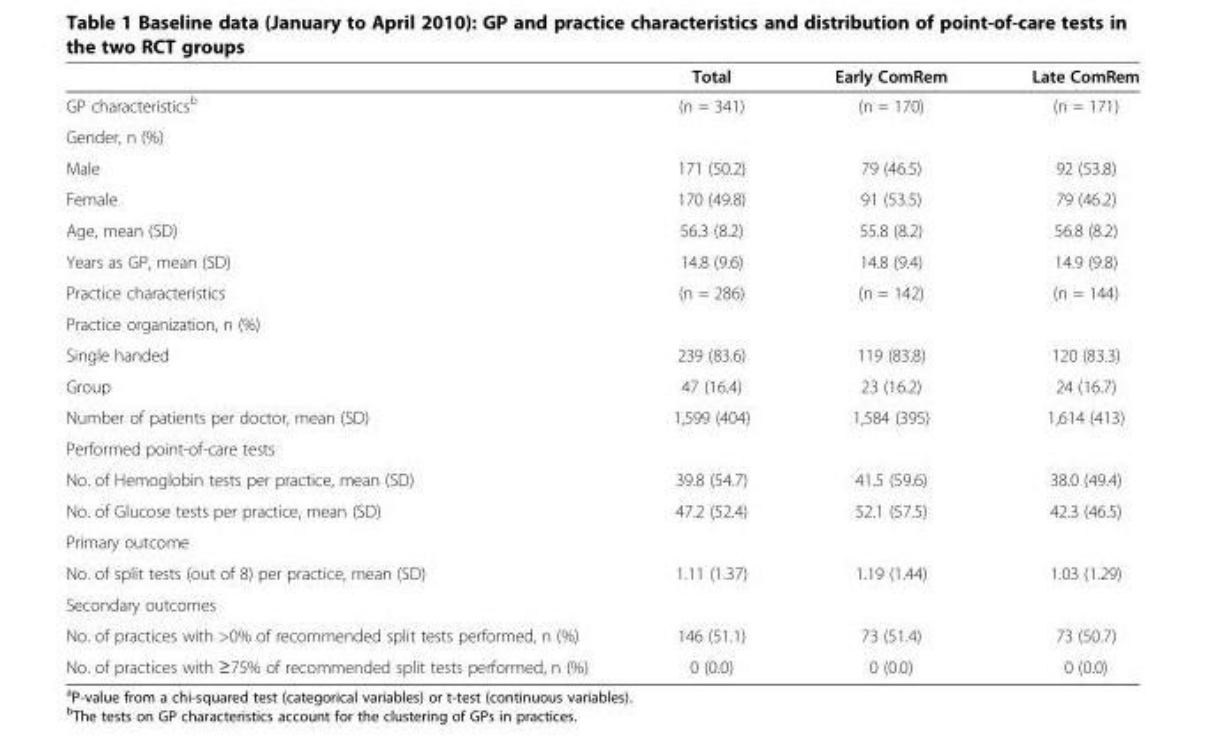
<table><thead><tr><td></td><td>Total</td><td>Early ComRem</td><td>Late ComRem</td></tr></thead><tbody><tr><td>GP characteristics<sup>b</sup></td><td>(n = 341)</td><td>(n = 170)</td><td>(n = 171)</td></tr><tr><td colspan="4">Gender, n (%)</td></tr><tr><td>Male</td><td>171 (50.2)</td><td>79 (46.5)</td><td>92 (53.8)</td></tr><tr><td>Female</td><td>170 (49.8)</td><td>91 (53.5)</td><td>79 (46.2)</td></tr><tr><td>Age, mean (SD)</td><td>56.3 (8.2)</td><td>55.8 (8.2)</td><td>56.8 (8.2)</td></tr><tr><td>Years as GP, mean (SD)</td><td>14.8 (9.6)</td><td>14.8 (9.4)</td><td>14.9 (9.8)</td></tr><tr><td>Practice characteristics</td><td>(n = 286)</td><td>(n = 142)</td><td>(n = 144)</td></tr><tr><td colspan="4">Practice organization, n (%)</td></tr><tr><td>Single handed</td><td>239 (83.6)</td><td>119 (83.8)</td><td>120 (83.3)</td></tr><tr><td>Group</td><td>47 (16.4)</td><td>23 (16.2)</td><td>24 (16.7)</td></tr><tr><td>Number of patients per doctor, mean (SD)</td><td>1,599 (404)</td><td>1,584 (395)</td><td>1,614 (413)</td></tr><tr><td colspan="4">Performed point-of-care tests</td></tr><tr><td>No. of Hemoglobin tests per practice, mean (SD)</td><td>39.8 (54.7)</td><td>41.5 (59.6)</td><td>38.0 (49.4)</td></tr><tr><td>No. of Glucose tests per practice, mean (SD)</td><td>47.2 (52.4)</td><td>52.1 (57.5)</td><td>42.3 (46.5)</td></tr><tr><td colspan="4">Primary outcome</td></tr><tr><td>No. of split tests (out of 8) per practice, mean (SD)</td><td>1.11 (1.37)</td><td>1.19 (1.44)</td><td>1.03 (1.29)</td></tr><tr><td colspan="4">Secondary outcomes</td></tr><tr><td>No. of practices with &gt;0% of recommended split tests performed, n (%)</td><td>146 (51.1)</td><td>73 (51.4)</td><td>73 (50.7)</td></tr><tr><td>No. of practices with ≥75% of recommended split tests performed, n (%)</td><td>0 (0.0)</td><td>0 (0.0)</td><td>0 (0.0)</td></tr></tbody></table>